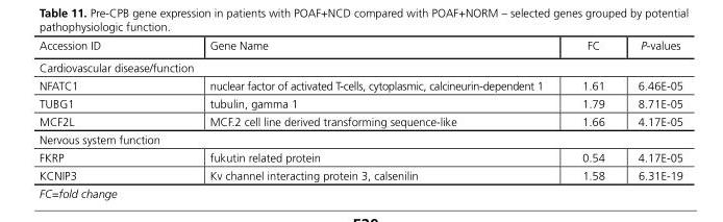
<table><thead><tr><td>Accession ID</td><td>Gene Name</td><td>FC</td><td>P-values</td></tr></thead><tbody><tr><td colspan="4">Cardiovascular disease/function</td></tr><tr><td>NFATC1</td><td>nuclear factor of activated T-cells, cytoplasmic, calcineurin-dependent 1</td><td>1.61</td><td>6.46E-05</td></tr><tr><td>TUBG1</td><td>tubulin, gamma 1</td><td>1.79</td><td>8.71E-05</td></tr><tr><td>MCF2L</td><td>MCF.2 cell line derived transforming sequence-like</td><td>1.66</td><td>4.17E-05</td></tr><tr><td colspan="4">Nervous system function</td></tr><tr><td>FKRP</td><td>fukutin related protein</td><td>0.54</td><td>4.17E-05</td></tr><tr><td>KCNIP3</td><td>Kv channel interacting protein 3, calsenilin</td><td>1.58</td><td>6.31E-19</td></tr></tbody></table>